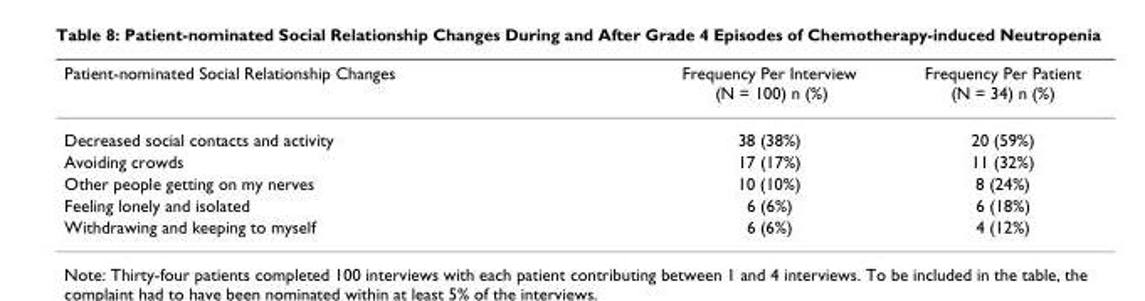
<table><thead><tr><td>Patient-nominated Social Relationship Changes</td><td>Frequency Per Interview (N = 100) n (%)</td><td>Frequency Per Patient (N = 34) n (%)</td></tr></thead><tbody><tr><td>Decreased social contacts and activity</td><td>38 (38%)</td><td>20 (59%)</td></tr><tr><td>Avoiding crowds</td><td>17 (17%)</td><td>11 (32%)</td></tr><tr><td>Other people getting on my nerves</td><td>10 (10%)</td><td>8 (24%)</td></tr><tr><td>Feeling lonely and isolated</td><td>6 (6%)</td><td>6 (18%)</td></tr><tr><td>Withdrawing and keeping to myself</td><td>6 (6%)</td><td>4 (12%)</td></tr></tbody></table>